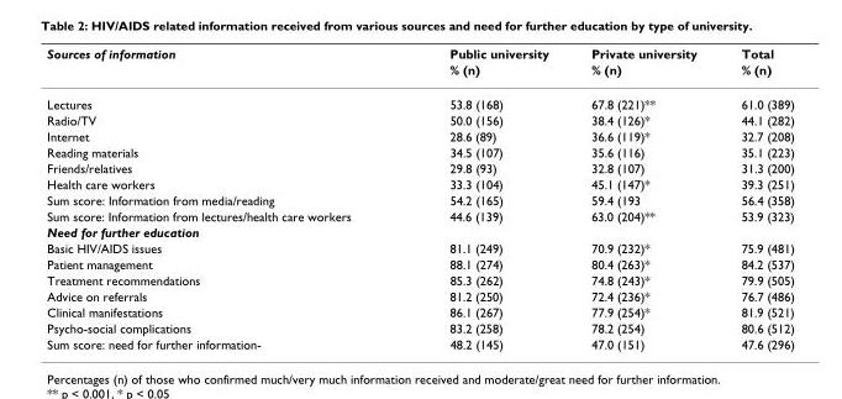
<table><thead><tr><td rowspan="2">Sources of information</td><td rowspan="2">Public university % (n)</td><td rowspan="2">Private university % (n)</td><td rowspan="2">Total % (n)</td></tr><tr></tr></thead><tbody><tr><td>Lectures</td><td>53.8 (168)</td><td>67.8 (221)**</td><td>61.0 (389)</td></tr><tr><td>Radio/TV</td><td>50.0 (156)</td><td>38.4 (126)*</td><td>44.1 (282)</td></tr><tr><td>Internet</td><td>28.6 (89)</td><td>36.6 (119)*</td><td>32.7 (208)</td></tr><tr><td>Reading materials</td><td>34.5 (107)</td><td>35.6 (116)</td><td>35.1 (223)</td></tr><tr><td>Friends/relatives</td><td>29.8 (93)</td><td>32.8 (107)</td><td>31.3 (200)</td></tr><tr><td>Health care workers</td><td>33.3 (104)</td><td>45.1 (147)*</td><td>39.3 (251)</td></tr><tr><td>Sum score: Information from media/reading</td><td>54.2 (165)</td><td>59.4 (193</td><td>56.4 (358)</td></tr><tr><td>Sum score: Information from lectures/health care workers</td><td>44.6 (139)</td><td>63.0 (204)**</td><td>53.9 (323)</td></tr><tr><td colspan="4">Need for further education</td></tr><tr><td>Basic HIV/AIDS issues</td><td>81.1 (249)</td><td>70.9 (232)*</td><td>75.9 (481)</td></tr><tr><td>Patient management</td><td>88.1 (274)</td><td>80.4 (263)*</td><td>84.2 (537)</td></tr><tr><td>Treatment recommendations</td><td>85.3 (262)</td><td>74.8 (243)*</td><td>79.9 (505)</td></tr><tr><td>Advice on referrals</td><td>81.2 (250)</td><td>72.4 (236)*</td><td>76.7 (486)</td></tr><tr><td>Clinical manifestations</td><td>86.1 (267)</td><td>77.9 (254)*</td><td>81.9 (521)</td></tr><tr><td>Psycho-social complications</td><td>83.2 (258)</td><td>78.2 (254)</td><td>80.6 (512)</td></tr><tr><td>Sum score: need for further information-</td><td>48.2 (145)</td><td>47.0 (151)</td><td>47.6 (296)</td></tr></tbody></table>